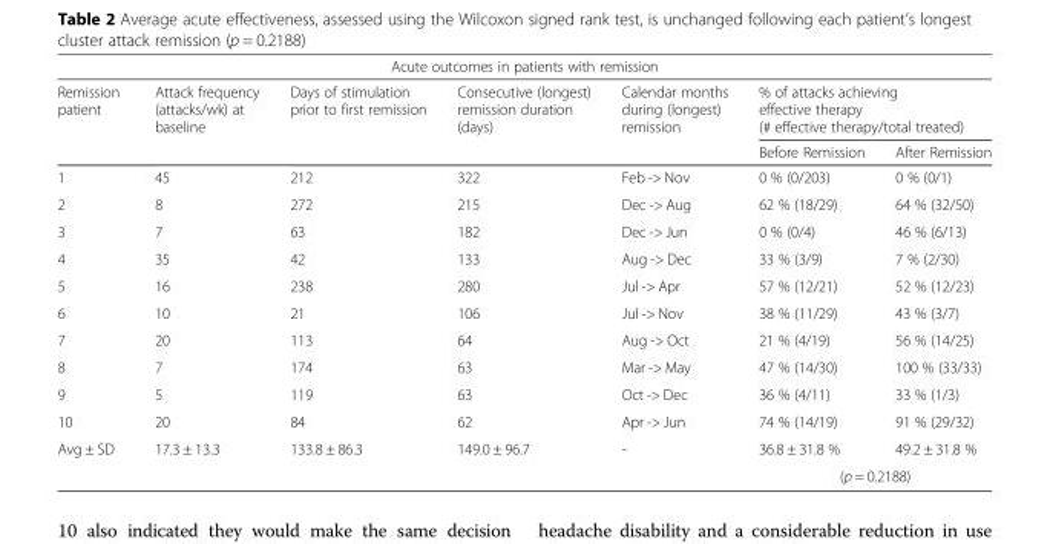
<table><thead><tr><td colspan="7">Acute outcomes in patients with remission</td></tr><tr><td rowspan="2">Remission patient</td><td rowspan="2">Attack frequency (attacks/wk) at baseline</td><td rowspan="2">Days of stimulation prior to first remission</td><td rowspan="2">Consecutive (longest) remission duration (days)</td><td rowspan="2">Calendar months during (longest) remission</td><td colspan="2">% of attacks achieving effective therapy (# effective therapy/total treated)</td></tr><tr><td>Before Remission</td><td>After Remission</td></tr></thead><tbody><tr><td>1</td><td>45</td><td>212</td><td>322</td><td>Feb -&gt; Nov</td><td>0 % (0/203)</td><td>0 % (0/1)</td></tr><tr><td>2</td><td>8</td><td>272</td><td>215</td><td>Dec -&gt; Aug</td><td>62 % (18/29)</td><td>64 % (32/50)</td></tr><tr><td>3</td><td>7</td><td>63</td><td>182</td><td>Dec -&gt; Jun</td><td>0 % (0/4)</td><td>46 % (6/13)</td></tr><tr><td>4</td><td>35</td><td>42</td><td>133</td><td>Aug -&gt; Dec</td><td>33 % (3/9)</td><td>7 % (2/30)</td></tr><tr><td>5</td><td>16</td><td>238</td><td>280</td><td>Jul -&gt; Apr</td><td>57 % (12/21)</td><td>52 % (12/23)</td></tr><tr><td>6</td><td>10</td><td>21</td><td>106</td><td>Jul -&gt; Nov</td><td>38 % (11/29)</td><td>43 % (3/7)</td></tr><tr><td>7</td><td>20</td><td>113</td><td>64</td><td>Aug -&gt; Oct</td><td>21 % (4/19)</td><td>56 % (14/25)</td></tr><tr><td>8</td><td>7</td><td>174</td><td>63</td><td>Mar -&gt; May</td><td>47 % (14/30)</td><td>100 % (33/33)</td></tr><tr><td>9</td><td>5</td><td>119</td><td>63</td><td>Oct -&gt; Dec</td><td>36 % (4/11)</td><td>33 % (1/3)</td></tr><tr><td>10</td><td>20</td><td>84</td><td>62</td><td>Apr -&gt; Jun</td><td>74 % (14/19)</td><td>91 % (29/32)</td></tr><tr><td rowspan="2">Avg ± SD</td><td rowspan="2">17.3 ± 13.3</td><td rowspan="2">133.8 ± 86.3</td><td rowspan="2">149.0 ± 96.7</td><td rowspan="2">-</td><td>36.8 ± 31.8 %</td><td>49.2 ± 31.8 %</td></tr><tr><td colspan="2">(p = 0.2188)</td></tr></tbody></table>